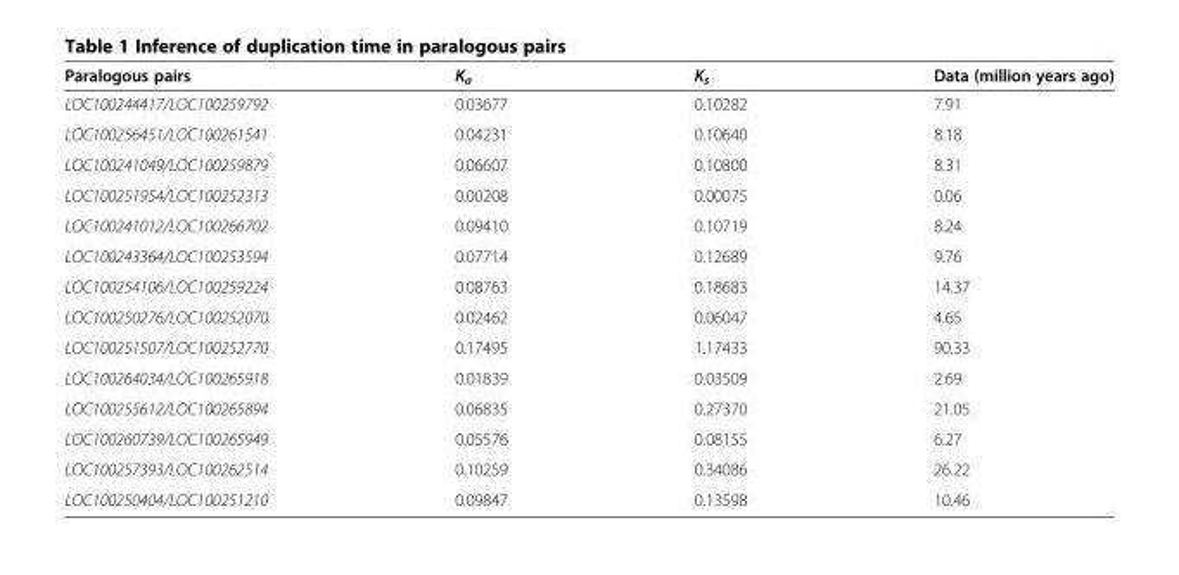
<table><thead><tr><td>Paralogous pairs</td><td>K<sub>a</sub></td><td>K<sub>s</sub></td><td>Data (million years ago)</td></tr></thead><tbody><tr><td>LOC100244417/LOC100259792</td><td>0.03677</td><td>0.10282</td><td>7.91</td></tr><tr><td>LOC100256451/LOC100261541</td><td>0.04231</td><td>0.10640</td><td>8.18</td></tr><tr><td>LOC100241049/LOC100259879</td><td>0.06607</td><td>0.10800</td><td>8.31</td></tr><tr><td>LOC100251954/LOC100252313</td><td>0.00208</td><td>0.00075</td><td>0.06</td></tr><tr><td>LOC100241012/LOC100266702</td><td>0.09410</td><td>0.10719</td><td>8.24</td></tr><tr><td>LOC100243364/LOC100253594</td><td>0.07714</td><td>0.12689</td><td>9.76</td></tr><tr><td>LOC100254106/LOC100259224</td><td>0.08763</td><td>0.18683</td><td>14.37</td></tr><tr><td>LOC100250276/LOC100252070</td><td>0.02462</td><td>0.06047</td><td>4.65</td></tr><tr><td>LOC100251507/LOC100252770</td><td>0.17495</td><td>1.17433</td><td>90.33</td></tr><tr><td>LOC100264034/LOC100265918</td><td>0.01839</td><td>0.03509</td><td>2.69</td></tr><tr><td>LOC100255612/LOC100265894</td><td>0.06835</td><td>0.27370</td><td>21.05</td></tr><tr><td>LOC100260739/LOC100265949</td><td>0.05576</td><td>0.08155</td><td>6.27</td></tr><tr><td>LOC100257393/LOC100262514</td><td>0.10259</td><td>0.34086</td><td>26.22</td></tr><tr><td>LOC100250404/LOC100251210</td><td>0.09847</td><td>0.13598</td><td>10.46</td></tr></tbody></table>